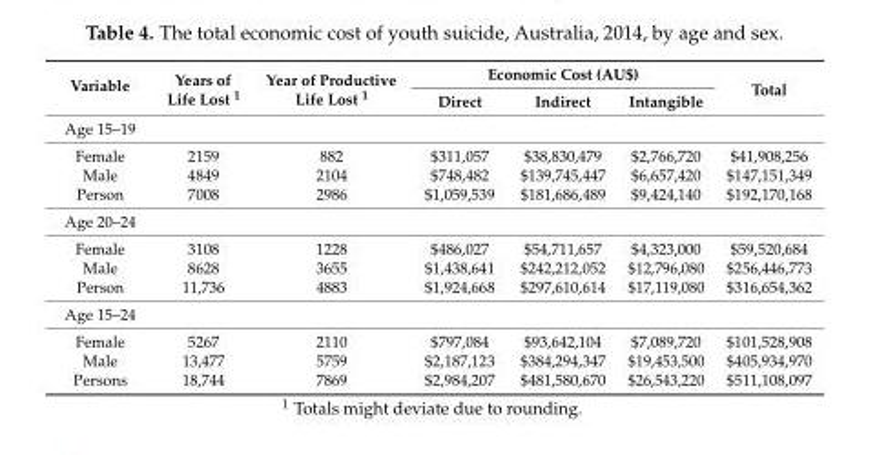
<table><thead><tr><td rowspan="2">Variable</td><td rowspan="2">Years of Life Lost <sup>1</sup></td><td rowspan="2">Year of Productive Life Lost <sup>1</sup></td><td colspan="3">Economic Cost (AU$)</td><td rowspan="2">Total</td></tr><tr><td>Direct</td><td>Indirect</td><td>Intangible</td></tr></thead><tbody><tr><td colspan="7">Age 15–19</td></tr><tr><td>Female</td><td>2159</td><td>882</td><td>$311,057</td><td>$38,830,479</td><td>$2,766,720</td><td>$41,908,256</td></tr><tr><td>Male</td><td>4849</td><td>2104</td><td>$748,482</td><td>$139,745,447</td><td>$6,657,420</td><td>$147,151,349</td></tr><tr><td>Person</td><td>7008</td><td>2986</td><td>$1,059,539</td><td>$181,686,489</td><td>$9,424,140</td><td>$192,170,168</td></tr><tr><td colspan="7">Age 20–24</td></tr><tr><td>Female</td><td>3108</td><td>1228</td><td>$486,027</td><td>$54,711,657</td><td>$4,323,000</td><td>$59,520,684</td></tr><tr><td>Male</td><td>8628</td><td>3655</td><td>$1,438,641</td><td>$242,212,052</td><td>$12,796,080</td><td>$256,446,773</td></tr><tr><td>Person</td><td>11,736</td><td>4883</td><td>$1,924,668</td><td>$297,610,614</td><td>$17,119,080</td><td>$316,654,362</td></tr><tr><td colspan="7">Age 15–24</td></tr><tr><td>Female</td><td>5267</td><td>2110</td><td>$797,084</td><td>$93,642,104</td><td>$7,089,720</td><td>$101,528,908</td></tr><tr><td>Male</td><td>13,477</td><td>5759</td><td>$2,187,123</td><td>$384,294,347</td><td>$19,453,500</td><td>$405,934,970</td></tr><tr><td>Persons</td><td>18,744</td><td>7869</td><td>$2,984,207</td><td>$481,580,670</td><td>$26,543,220</td><td>$511,108,097</td></tr></tbody></table>